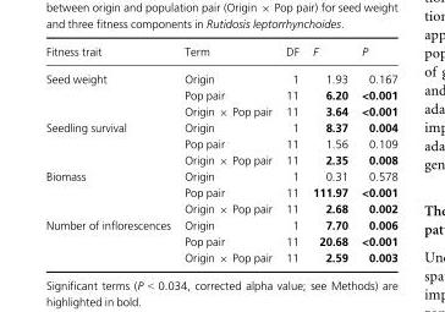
<table><thead><tr><td>Fitness trait</td><td>Term</td><td>DF</td><td>F</td><td>P</td></tr></thead><tbody><tr><td rowspan="3">Seed weight</td><td>Origin</td><td>1</td><td>1.93</td><td>0.167</td></tr><tr><td>Pop pair</td><td>11</td><td>6.20</td><td>&lt;0.001</td></tr><tr><td>Origin × Pop pair</td><td>11</td><td>3.64</td><td>&lt;0.001</td></tr><tr><td rowspan="3">Seedling survival</td><td>Origin</td><td>1</td><td>8.37</td><td>0.004</td></tr><tr><td>Pop pair</td><td>11</td><td>1.56</td><td>0.109</td></tr><tr><td>Origin × Pop pair</td><td>11</td><td>2.35</td><td>0.008</td></tr><tr><td rowspan="3">Biomass</td><td>Origin</td><td>1</td><td>0.31</td><td>0.578</td></tr><tr><td>Pop pair</td><td>11</td><td>111.97</td><td>&lt;0.001</td></tr><tr><td>Origin × Pop pair</td><td>11</td><td>2.68</td><td>0.002</td></tr><tr><td rowspan="3">Number of inflorescences</td><td>Origin</td><td>1</td><td>7.70</td><td>0.006</td></tr><tr><td>Pop pair</td><td>11</td><td>20.68</td><td>&lt;0.001</td></tr><tr><td>Origin × Pop pair</td><td>11</td><td>2.59</td><td>0.003</td></tr></tbody></table>